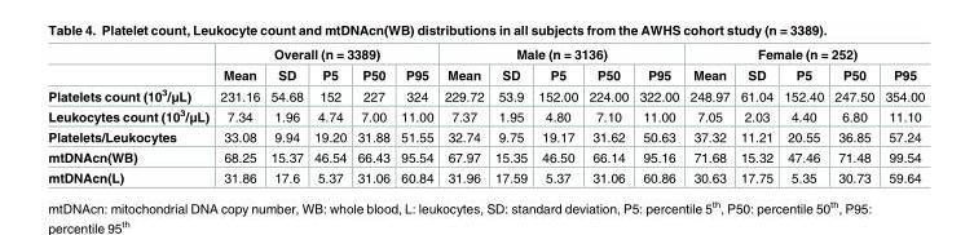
<table><thead><tr><td rowspan="2"></td><td colspan="5">Overall (n = 3389)</td><td colspan="5">Male (n = 3136)</td><td colspan="5">Female (n = 252)</td></tr><tr><td>Mean</td><td>SD</td><td>P5</td><td>P50</td><td>P95</td><td>Mean</td><td>SD</td><td>P5</td><td>P50</td><td>P95</td><td>Mean</td><td>SD</td><td>P5</td><td>P50</td><td>P95</td></tr></thead><tbody><tr><td>Platelets count (10<sup>3</sup>/μL)</td><td>231.16</td><td>54.68</td><td>152</td><td>227</td><td>324</td><td>229.72</td><td>53.9</td><td>152.00</td><td>224.00</td><td>322.00</td><td>248.97</td><td>61.04</td><td>152.40</td><td>247.50</td><td>354.00</td></tr><tr><td>Leukocytes count (10<sup>3</sup>/μL)</td><td>7.34</td><td>1.96</td><td>4.74</td><td>7.00</td><td>11.00</td><td>7.37</td><td>1.95</td><td>4.80</td><td>7.10</td><td>11.00</td><td>7.05</td><td>2.03</td><td>4.40</td><td>6.80</td><td>11.10</td></tr><tr><td>Platelets/Leukocytes</td><td>33.08</td><td>9.94</td><td>19.20</td><td>31.88</td><td>51.55</td><td>32.74</td><td>9.75</td><td>19.17</td><td>31.62</td><td>50.63</td><td>37.32</td><td>11.21</td><td>20.55</td><td>36.85</td><td>57.24</td></tr><tr><td>mtDNAcn(WB)</td><td>68.25</td><td>15.37</td><td>46.54</td><td>66.43</td><td>95.54</td><td>67.97</td><td>15.35</td><td>46.50</td><td>66.14</td><td>95.16</td><td>71.68</td><td>15.32</td><td>47.46</td><td>71.48</td><td>99.54</td></tr><tr><td>mtDNAcn(L)</td><td>31.86</td><td>17.6</td><td>5.37</td><td>31.06</td><td>60.84</td><td>31.96</td><td>17.59</td><td>5.37</td><td>31.06</td><td>60.86</td><td>30.63</td><td>17.75</td><td>5.35</td><td>30.73</td><td>59.64</td></tr></tbody></table>